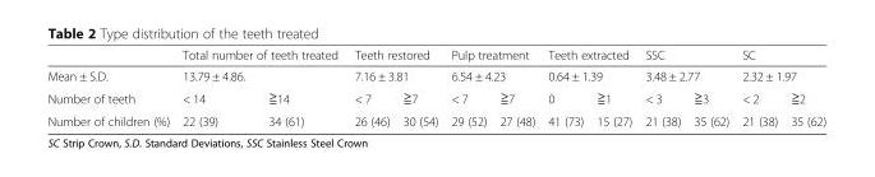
<table><thead><tr><td rowspan="3">Mean ± S.D. Number of teeth</td><td rowspan="2" colspan="2">Total number of teeth treated 13.79 ± 4.86.</td><td rowspan="2" colspan="2">Teeth restored 7.16 ± 3.81</td><td rowspan="2" colspan="2">Pulp treatment 6.54 ± 4.23</td><td rowspan="2" colspan="2">Teeth extracted 0.64 ± 1.39</td><td rowspan="2" colspan="2">SSC 3.48 ± 2.77</td><td rowspan="2" colspan="2">SC 2.32 ± 1.97</td></tr><tr></tr><tr><td>&lt; 14</td><td>≧14</td><td>&lt; 7</td><td>≧7</td><td>&lt; 7</td><td>≧7</td><td>0</td><td>≧1</td><td>&lt; 3</td><td>≧3</td><td>&lt; 2</td><td>≧2</td></tr></thead><tbody><tr><td>Number of children (%)</td><td>22 (39)</td><td>34 (61)</td><td>26 (46)</td><td>30 (54)</td><td>29 (52)</td><td>27 (48)</td><td>41 (73)</td><td>15 (27)</td><td>21 (38)</td><td>35 (62)</td><td>21 (38)</td><td>35 (62)</td></tr></tbody></table>